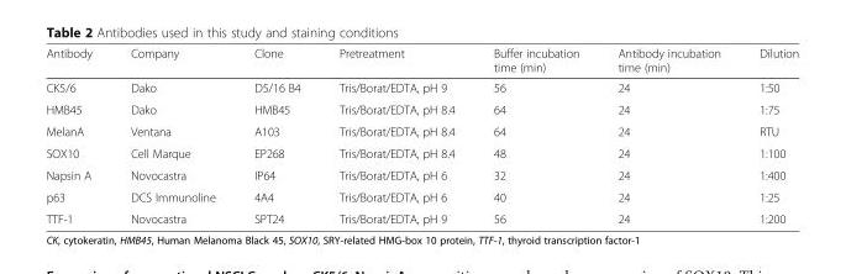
<table><thead><tr><td>Antibody</td><td>Company</td><td>Clone</td><td>Pretreatment</td><td>Buffer incubation time (min)</td><td>Antibody incubation time (min)</td><td>Dilution</td></tr></thead><tbody><tr><td>CK5/6</td><td>Dako</td><td>D5/16 B4</td><td>Tris/Borat/EDTA, pH 9</td><td>56</td><td>24</td><td>1:50</td></tr><tr><td>HMB45</td><td>Dako</td><td>HMB45</td><td>Tris/Borat/EDTA, pH 8.4</td><td>64</td><td>24</td><td>1:75</td></tr><tr><td>MelanA</td><td>Ventana</td><td>A103</td><td>Tris/Borat/EDTA, pH 8.4</td><td>64</td><td>24</td><td>RTU</td></tr><tr><td>SOX10</td><td>Cell Marque</td><td>EP268</td><td>Tris/Borat/EDTA, pH 8.4</td><td>48</td><td>24</td><td>1:100</td></tr><tr><td>Napsin A</td><td>Novocastra</td><td>IP64</td><td>Tris/Borat/EDTA, pH 6</td><td>32</td><td>24</td><td>1:400</td></tr><tr><td>p63</td><td>DCS Immunoline</td><td>4A4</td><td>Tris/Borat/EDTA, pH 6</td><td>40</td><td>24</td><td>1:25</td></tr><tr><td>TTF-1</td><td>Novocastra</td><td>SPT24</td><td>Tris/Borat/EDTA, pH 9</td><td>56</td><td>24</td><td>1:200</td></tr></tbody></table>